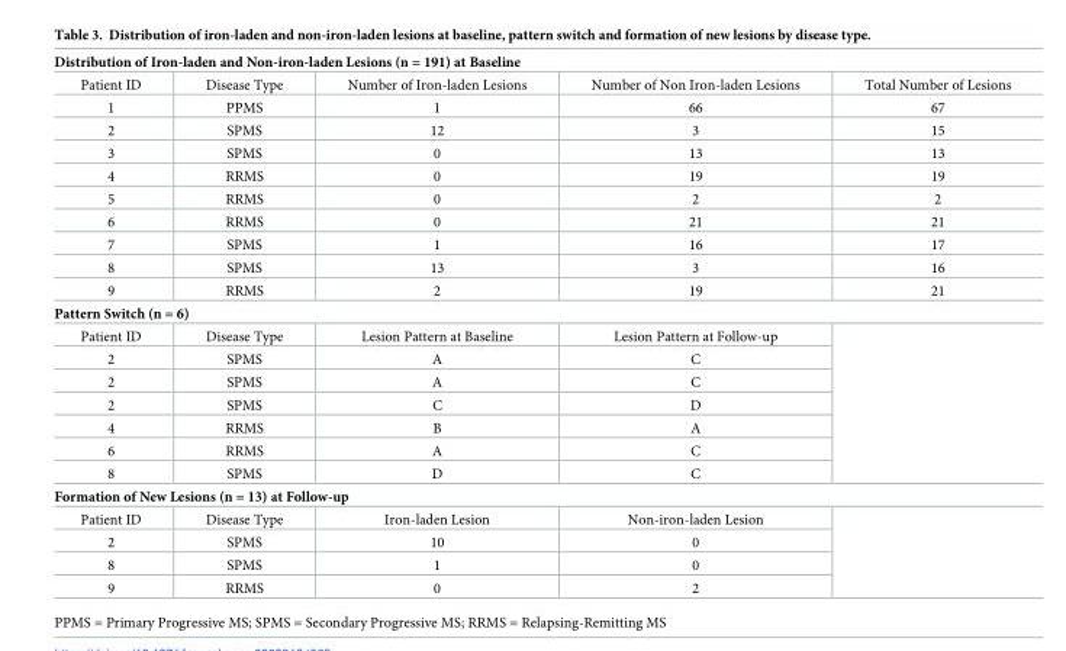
<table><tbody><tr><td colspan="5">Distribution of Iron-laden and Non-iron-laden Lesions (n = 191) at Baseline</td></tr><tr><td>Patient ID</td><td>Disease Type</td><td>Number of Iron-laden Lesions</td><td>Number of Non Iron-laden Lesions</td><td>Total Number of Lesions</td></tr><tr><td>1</td><td>PPMS</td><td>1</td><td>66</td><td>67</td></tr><tr><td>2</td><td>SPMS</td><td>12</td><td>3</td><td>15</td></tr><tr><td>3</td><td>SPMS</td><td>0</td><td>13</td><td>13</td></tr><tr><td>4</td><td>RRMS</td><td>0</td><td>19</td><td>19</td></tr><tr><td>5</td><td>RRMS</td><td>0</td><td>2</td><td>2</td></tr><tr><td>6</td><td>RRMS</td><td>0</td><td>21</td><td>21</td></tr><tr><td>7</td><td>SPMS</td><td>1</td><td>16</td><td>17</td></tr><tr><td>8</td><td>SPMS</td><td>13</td><td>3</td><td>16</td></tr><tr><td>9</td><td>RRMS</td><td>2</td><td>19</td><td>21</td></tr><tr><td colspan="5">Pattern Switch (n = 6)</td></tr><tr><td>Patient ID</td><td>Disease Type</td><td>Lesion Pattern at Baseline</td><td>Lesion Pattern at Follow-up</td><td rowspan="7"></td></tr><tr><td>2</td><td>SPMS</td><td>A</td><td>C</td></tr><tr><td>2</td><td>SPMS</td><td>A</td><td>C</td></tr><tr><td>2</td><td>SPMS</td><td>C</td><td>D</td></tr><tr><td>4</td><td>RRMS</td><td>B</td><td>A</td></tr><tr><td>6</td><td>RRMS</td><td>A</td><td>C</td></tr><tr><td>8</td><td>SPMS</td><td>D</td><td>C</td></tr><tr><td colspan="5">Formation of New Lesions (n = 13) at Follow-up</td></tr><tr><td>Patient ID</td><td>Disease Type</td><td>Iron-laden Lesion</td><td>Non-iron-laden Lesion</td><td rowspan="4"></td></tr><tr><td>2</td><td>SPMS</td><td>10</td><td>0</td></tr><tr><td>8</td><td>SPMS</td><td>1</td><td>0</td></tr><tr><td>9</td><td>RRMS</td><td>0</td><td>2</td></tr></tbody></table>